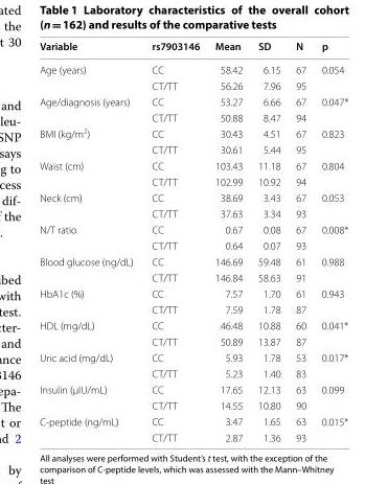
<table><thead><tr><td>Variable</td><td>rs7903146</td><td>Mean</td><td>SD</td><td>N</td><td>p</td></tr></thead><tbody><tr><td rowspan="2">Age (years)</td><td>CC</td><td>58.42</td><td>6.15</td><td>67</td><td rowspan="2">0.054</td></tr><tr><td>CT/TT</td><td>56.26</td><td>7.96</td><td>95</td></tr><tr><td rowspan="2">Age/diagnosis (years)</td><td>CC</td><td>53.27</td><td>6.66</td><td>67</td><td rowspan="2">0.047*</td></tr><tr><td>CT/TT</td><td>50.88</td><td>8.47</td><td>94</td></tr><tr><td rowspan="2">BMI (kg/m<sup>2</sup>)</td><td>CC</td><td>30.43</td><td>4.51</td><td>67</td><td rowspan="2">0.823</td></tr><tr><td>CT/TT</td><td>30.61</td><td>5.44</td><td>95</td></tr><tr><td rowspan="2">Waist (cm)</td><td>CC</td><td>103.43</td><td>11.18</td><td>67</td><td rowspan="2">0.804</td></tr><tr><td>CT/TT</td><td>102.99</td><td>10.92</td><td>94</td></tr><tr><td rowspan="2">Neck (cm)</td><td>CC</td><td>38.69</td><td>3.43</td><td>67</td><td rowspan="2">0.053</td></tr><tr><td>CT/TT</td><td>37.63</td><td>3.34</td><td>93</td></tr><tr><td rowspan="2">N/T ratio</td><td>CC</td><td>0.67</td><td>0.08</td><td>67</td><td rowspan="2">0.008*</td></tr><tr><td>CT/TT</td><td>0.64</td><td>0.07</td><td>93</td></tr><tr><td rowspan="2">Blood glucose (ng/dL)</td><td>CC</td><td>146.69</td><td>59.48</td><td>61</td><td rowspan="2">0.988</td></tr><tr><td>CT/TT</td><td>146.84</td><td>58.63</td><td>91</td></tr><tr><td rowspan="2">HbA1c (%)</td><td>CC</td><td>7.57</td><td>1.70</td><td>61</td><td rowspan="2">0.943</td></tr><tr><td>CT/TT</td><td>7.59</td><td>1.78</td><td>87</td></tr><tr><td rowspan="2">HDL (mg/dL)</td><td>CC</td><td>46.48</td><td>10.88</td><td>60</td><td rowspan="2">0.041*</td></tr><tr><td>CT/TT</td><td>50.89</td><td>13.87</td><td>87</td></tr><tr><td rowspan="2">Uric acid (mg/dL)</td><td>CC</td><td>5.93</td><td>1.78</td><td>53</td><td rowspan="2">0.017*</td></tr><tr><td>CT/TT</td><td>5.23</td><td>1.40</td><td>83</td></tr><tr><td rowspan="2">Insulin (µIU/mL)</td><td>CC</td><td>17.65</td><td>12.13</td><td>63</td><td rowspan="2">0.099</td></tr><tr><td>CT/TT</td><td>14.55</td><td>10.80</td><td>90</td></tr><tr><td rowspan="2">C‑peptide (ng/mL)</td><td>CC</td><td>3.47</td><td>1.65</td><td>63</td><td rowspan="2">0.015*</td></tr><tr><td>CT/TT</td><td>2.87</td><td>1.36</td><td>93</td></tr></tbody></table>